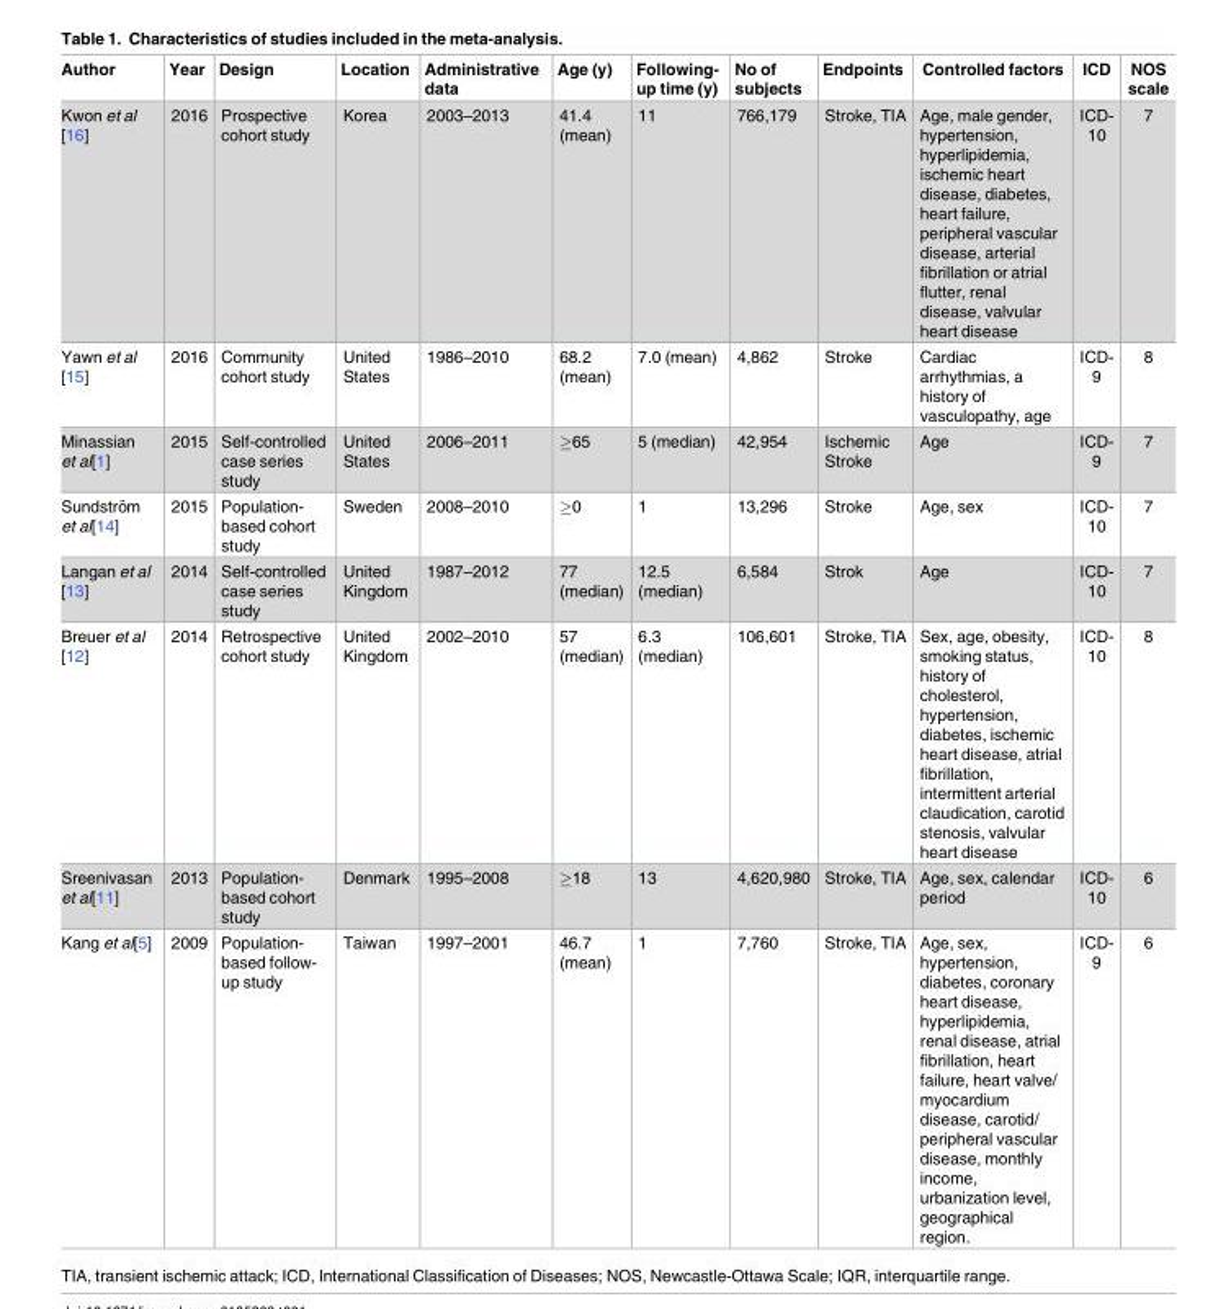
<table><thead><tr><td>Author</td><td>Year</td><td>Design</td><td>Location</td><td>Administrative data</td><td>Age (y)</td><td>Following- up time (y)</td><td>No of subjects</td><td>Endpoints</td><td>Controlled factors</td><td>ICD</td><td>NOS scale</td></tr></thead><tbody><tr><td>Kwon et al [16]</td><td>2016</td><td>Prospective cohort study</td><td>Korea</td><td>2003–2013</td><td>41.4 (mean)</td><td>11</td><td>766,179</td><td>Stroke, TIA</td><td>Age, male gender, hypertension, hyperlipidemia, ischemic heart disease, diabetes, heart failure, peripheral vascular disease, arterial fibrillation or atrial flutter, renal disease, valvular heart disease</td><td>ICD- 10</td><td>7</td></tr><tr><td>Yawn et al [15]</td><td>2016</td><td>Community cohort study</td><td>United States</td><td>1986–2010</td><td>68.2 (mean)</td><td>7.0 (mean)</td><td>4,862</td><td>Stroke</td><td>Cardiac arrhythmias, a history of vasculopathy, age</td><td>ICD- 9</td><td>8</td></tr><tr><td>Minassian et al[1]</td><td>2015</td><td>Self-controlled case series study</td><td>United States</td><td>2006–2011</td><td>≥65</td><td>5 (median)</td><td>42,954</td><td>Ischemic Stroke</td><td>Age</td><td>ICD- 9</td><td>7</td></tr><tr><td>Sundstro¨m et al[14]</td><td>2015</td><td>Population- based cohort study</td><td>Sweden</td><td>2008–2010</td><td>≥0</td><td>1</td><td>13,296</td><td>Stroke</td><td>Age, sex</td><td>ICD- 10</td><td>7</td></tr><tr><td>Langan et al [13]</td><td>2014</td><td>Self-controlled case series study</td><td>United Kingdom</td><td>1987–2012</td><td>77 (median)</td><td>12.5 (median)</td><td>6,584</td><td>Strok</td><td>Age</td><td>ICD- 10</td><td>7</td></tr><tr><td>Breuer et al [12]</td><td>2014</td><td>Retrospective cohort study</td><td>United Kingdom</td><td>2002–2010</td><td>57 (median)</td><td>6.3 (median)</td><td>106,601</td><td>Stroke, TIA</td><td>Sex, age, obesity, smoking status, history of cholesterol, hypertension, diabetes, ischemic heart disease, atrial fibrillation, intermittent arterial claudication, carotid stenosis, valvular heart disease</td><td>ICD- 10</td><td>8</td></tr><tr><td>Sreenivasan et al[11]</td><td>2013</td><td>Population- based cohort study</td><td>Denmark</td><td>1995–2008</td><td>≥18</td><td>13</td><td>4,620,980</td><td>Stroke, TIA</td><td>Age, sex, calendar period</td><td>ICD- 10</td><td>6</td></tr><tr><td>Kang et al[5]</td><td>2009</td><td>Population- based follow- up study</td><td>Taiwan</td><td>1997–2001</td><td>46.7 (mean)</td><td>1</td><td>7,760</td><td>Stroke, TIA</td><td>Age, sex, hypertension, diabetes, coronary heart disease, hyperlipidemia, renal disease, atrial fibrillation, heart failure, heart valve/ myocardium disease, carotid/ peripheral vascular disease, monthly income, urbanization level, geographical region.</td><td>ICD- 9</td><td>6</td></tr></tbody></table>